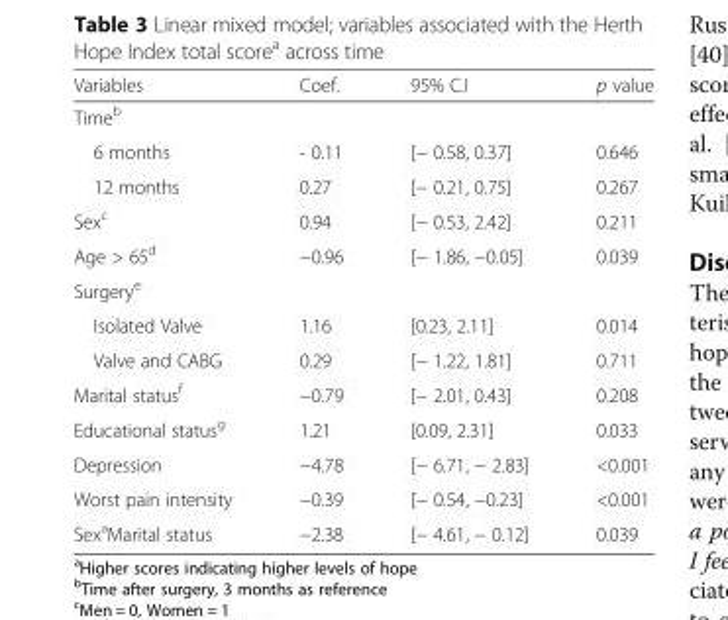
<table><thead><tr><td>Variables</td><td>Coef.</td><td>95% C.I</td><td>p value</td></tr></thead><tbody><tr><td colspan="4">Time<sup>b</sup></td></tr><tr><td>6 months</td><td>- 0.11</td><td>[− 0.58, 0.37]</td><td>0.646</td></tr><tr><td>12 months</td><td>0.27</td><td>[− 0.21, 0.75]</td><td>0.267</td></tr><tr><td>Sex<sup>c</sup></td><td>0.94</td><td>[− 0.53, 2.42]</td><td>0.211</td></tr><tr><td>Age &gt; 65<sup>d</sup></td><td>−0.96</td><td>[− 1.86, −0.05]</td><td>0.039</td></tr><tr><td colspan="4">Surgery<sup>e</sup></td></tr><tr><td>Isolated Valve</td><td>1.16</td><td>[0.23, 2.11]</td><td>0.014</td></tr><tr><td>Valve and CABG</td><td>0.29</td><td>[− 1.22, 1.81]</td><td>0.711</td></tr><tr><td>Marital status<sup>f</sup></td><td>−0.79</td><td>[− 2.01, 0.43]</td><td>0.208</td></tr><tr><td>Educational status<sup>g</sup></td><td>1.21</td><td>[0.09, 2.31]</td><td>0.033</td></tr><tr><td>Depression</td><td>−4.78</td><td>[− 6.71, − 2.83]</td><td>&lt;0.001</td></tr><tr><td>Worst pain intensity</td><td>−0.39</td><td>[− 0.54, −0.23]</td><td>&lt;0.001</td></tr><tr><td>Sex<sup>a</sup>Marital status</td><td>−2.38</td><td>[− 4.61, − 0.12]</td><td>0.039</td></tr></tbody></table>